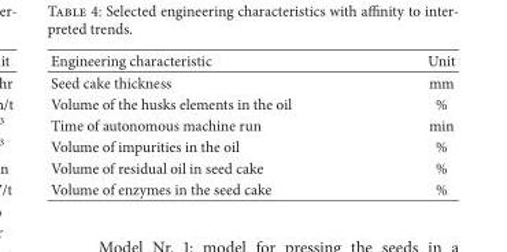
<table><thead><tr><td>Engineering characteristic</td><td>Unit</td></tr></thead><tbody><tr><td>Seed cake thickness</td><td>mm</td></tr><tr><td>Volume of the husks elements in the oil</td><td>%</td></tr><tr><td>Time of autonomous machine run</td><td>min</td></tr><tr><td>Volume of impurities in the oil</td><td>%</td></tr><tr><td>Volume of residual oil in seed cake</td><td>%</td></tr><tr><td>Volume of enzymes in the seed cake</td><td>%</td></tr></tbody></table>